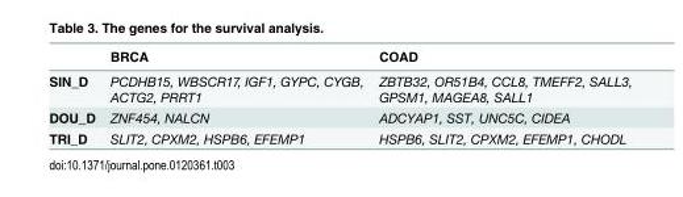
<table><thead><tr><td></td><td>BRCA</td><td>COAD</td></tr></thead><tbody><tr><td>SIN_D</td><td>PCDHB15, WBSCR17, IGF1, GYPC, CYGB, ACTG2, PRRT1</td><td>ZBTB32, OR51B4, CCL8, TMEFF2, SALL3, GPSM1, MAGEA8, SALL1</td></tr><tr><td>DOU_D</td><td>ZNF454, NALCN</td><td>ADCYAP1, SST, UNC5C, CIDEA</td></tr><tr><td>TRI_D</td><td>SLIT2, CPXM2, HSPB6, EFEMP1</td><td>HSPB6, SLIT2, CPXM2, EFEMP1, CHODL</td></tr></tbody></table>